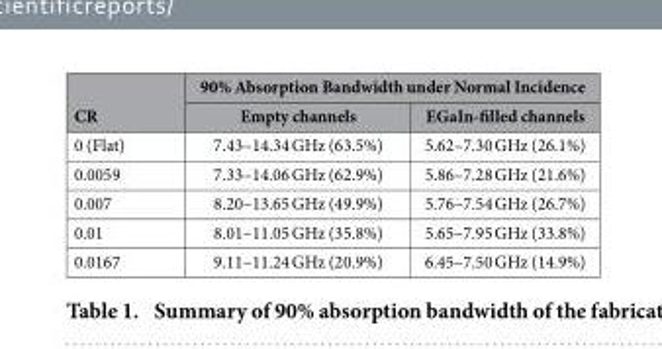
<table><thead><tr><td rowspan="2">CR</td><td colspan="2">90% Absorption Bandwidth under Normal Incidence</td></tr><tr><td>Empty channels</td><td>EGaIn-filled channels</td></tr></thead><tbody><tr><td>0 (Flat)</td><td>7.43–14.34 GHz (63.5%)</td><td>5.62–7.30 GHz (26.1%)</td></tr><tr><td>0.0059</td><td>7.33–14.06 GHz (62.9%)</td><td>5.86–7.28 GHz (21.6%)</td></tr><tr><td>0.007</td><td>8.20–13.65 GHz (49.9%)</td><td>5.76–7.54 GHz (26.7%)</td></tr><tr><td>0.01</td><td>8.01–11.05 GHz (35.8%)</td><td>5.65–7.95 GHz (33.8%)</td></tr><tr><td>0.0167</td><td>9.11–11.24 GHz (20.9%)</td><td>6.45–7.50 GHz (14.9%)</td></tr></tbody></table>